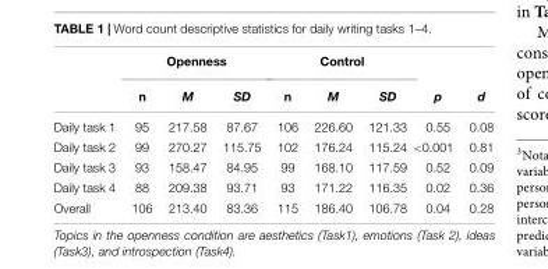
<table><thead><tr><td rowspan="2"></td><td colspan="3">Openness</td><td colspan="3">Control</td><td rowspan="2">p</td><td rowspan="2">d</td></tr><tr><td>n</td><td>M</td><td>SD</td><td>n</td><td>M</td><td>SD</td></tr></thead><tbody><tr><td>Daily task 1</td><td>95</td><td>217.58</td><td>87.67</td><td>106</td><td>226.60</td><td>121.33</td><td>0.55</td><td>0.08</td></tr><tr><td>Daily task 2</td><td>99</td><td>270.27</td><td>115.75</td><td>102</td><td>176.24</td><td>115.24</td><td>&lt;0.001</td><td>0.81</td></tr><tr><td>Daily task 3</td><td>93</td><td>158.47</td><td>84.95</td><td>99</td><td>168.10</td><td>117.59</td><td>0.52</td><td>0.09</td></tr><tr><td>Daily task 4</td><td>88</td><td>209.38</td><td>93.71</td><td>93</td><td>171.22</td><td>116.35</td><td>0.02</td><td>0.36</td></tr><tr><td>Overall</td><td>106</td><td>213.40</td><td>83.36</td><td>115</td><td>186.40</td><td>106.78</td><td>0.04</td><td>0.28</td></tr></tbody></table>